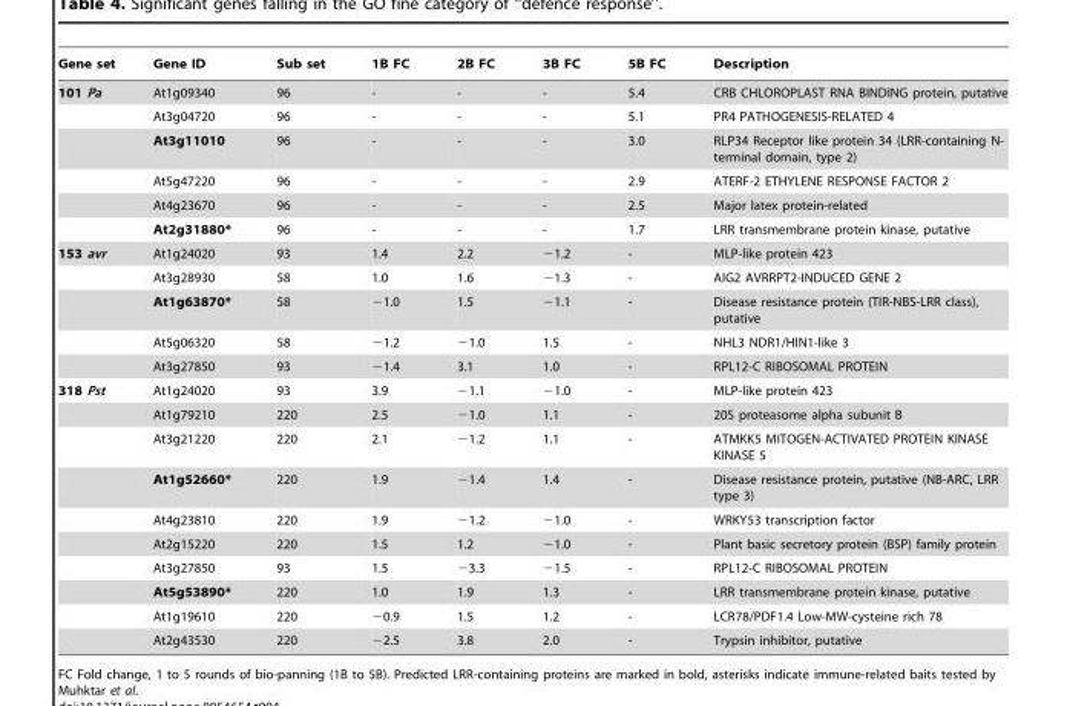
<table><thead><tr><td>Gene set</td><td>Gene ID</td><td>Sub set</td><td>1B FC</td><td>2B FC</td><td>3B FC</td><td>5B FC</td><td>Description</td></tr></thead><tbody><tr><td rowspan="6">101 Pa</td><td>At1g09340</td><td>96</td><td>-</td><td>-</td><td>-</td><td>5.4</td><td>CRB CHLOROPLAST RNA BINDING protein, putative</td></tr><tr><td>At3g04720</td><td>96</td><td>-</td><td>-</td><td>-</td><td>5.1</td><td>PR4 PATHOGENESIS-RELATED 4</td></tr><tr><td>At3g11010</td><td>96</td><td>-</td><td>-</td><td>-</td><td>3.0</td><td>RLP34 Receptor like protein 34 (LRR-containing N- terminal domain, type 2)</td></tr><tr><td>At5g47220</td><td>96</td><td>-</td><td>-</td><td>-</td><td>2.9</td><td>ATERF-2 ETHYLENE RESPONSE FACTOR 2</td></tr><tr><td>At4g23670</td><td>96</td><td>-</td><td>-</td><td>-</td><td>2.5</td><td>Major latex protein-related</td></tr><tr><td>At2g31880*</td><td>96</td><td>-</td><td>-</td><td>-</td><td>1.7</td><td>LRR transmembrane protein kinase, putative</td></tr><tr><td rowspan="5">153 avr</td><td>At1g24020</td><td>93</td><td>1.4</td><td>2.2</td><td>−1.2</td><td>-</td><td>MLP-like protein 423</td></tr><tr><td>At3g28930</td><td>58</td><td>1.0</td><td>1.6</td><td>−1.3</td><td>-</td><td>AIG2 AVRRPT2-INDUCED GENE 2</td></tr><tr><td>At1g63870*</td><td>58</td><td>−1.0</td><td>1.5</td><td>−1.1</td><td>-</td><td>Disease resistance protein (TIR-NBS-LRR class), putative</td></tr><tr><td>At5g06320</td><td>58</td><td>−1.2</td><td>−1.0</td><td>1.5</td><td>-</td><td>NHL3 NDR1/HIN1-like 3</td></tr><tr><td>At3g27850</td><td>93</td><td>−1.4</td><td>3.1</td><td>1.0</td><td>-</td><td>RPL12-C RIBOSOMAL PROTEIN</td></tr><tr><td rowspan="10">318 Pst</td><td>At1g24020</td><td>93</td><td>3.9</td><td>−1.1</td><td>−1.0</td><td>-</td><td>MLP-like protein 423</td></tr><tr><td>At1g79210</td><td>220</td><td>2.5</td><td>−1.0</td><td>1.1</td><td>-</td><td>20S proteasome alpha subunit B</td></tr><tr><td>At3g21220</td><td>220</td><td>2.1</td><td>−1.2</td><td>1.1</td><td>-</td><td>ATMKK5 MITOGEN-ACTIVATED PROTEIN KINASE KINASE 5</td></tr><tr><td>At1g52660*</td><td>220</td><td>1.9</td><td>−1.4</td><td>1.4</td><td>-</td><td>Disease resistance protein, putative (NB-ARC, LRR type 3)</td></tr><tr><td>At4g23810</td><td>220</td><td>1.9</td><td>−1.2</td><td>−1.0</td><td>-</td><td>WRKY53 transcription factor</td></tr><tr><td>At2g15220</td><td>220</td><td>1.5</td><td>1.2</td><td>−1.0</td><td>-</td><td>Plant basic secretory protein (BSP) family protein</td></tr><tr><td>At3g27850</td><td>93</td><td>1.5</td><td>−3.3</td><td>−1.5</td><td>-</td><td>RPL12-C RIBOSOMAL PROTEIN</td></tr><tr><td>At5g53890*</td><td>220</td><td>1.0</td><td>1.9</td><td>1.3</td><td>-</td><td>LRR transmembrane protein kinase, putative</td></tr><tr><td>At1g19610</td><td>220</td><td>−0.9</td><td>1.5</td><td>1.2</td><td>-</td><td>LCR78/PDF1.4 Low-MW-cysteine rich 78</td></tr><tr><td>At2g43530</td><td>220</td><td>−2.5</td><td>3.8</td><td>2.0</td><td>-</td><td>Trypsin inhibitor, putative</td></tr></tbody></table>